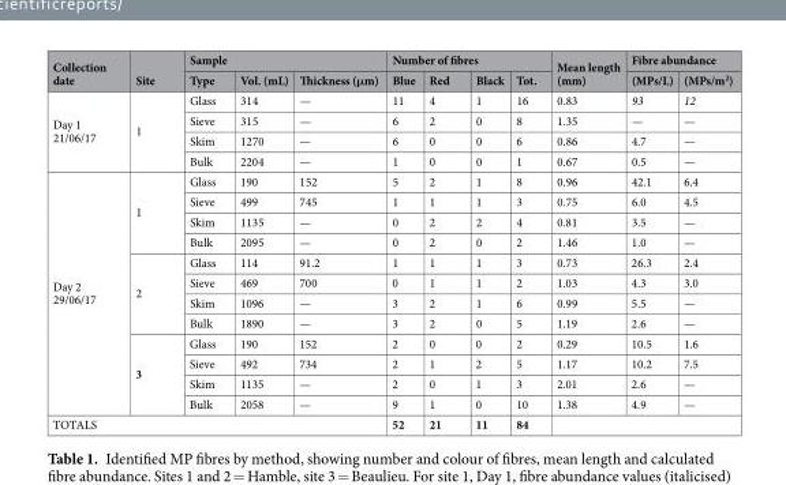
<table><thead><tr><td rowspan="2">Collection date</td><td rowspan="2">Site</td><td colspan="3">Sample</td><td colspan="4">Number of fibres</td><td rowspan="2">Mean length (mm)</td><td colspan="2">Fibre abundance</td></tr><tr><td>Type</td><td>Vol. (mL)</td><td>Thickness (μm)</td><td>Blue</td><td>Red</td><td>Black</td><td>Tot.</td><td>(MPs/L)</td><td>(MPs/m<sup>2</sup>)</td></tr></thead><tbody><tr><td rowspan="4">Day 1 21/06/17</td><td rowspan="4">1</td><td>Glass</td><td>314</td><td>—</td><td>11</td><td>4</td><td>1</td><td>16</td><td>0.83</td><td>93</td><td>12</td></tr><tr><td>Sieve</td><td>315</td><td>—</td><td>6</td><td>2</td><td>0</td><td>8</td><td>1.35</td><td>—</td><td>—</td></tr><tr><td>Skim</td><td>1270</td><td>—</td><td>6</td><td>0</td><td>0</td><td>6</td><td>0.86</td><td>4.7</td><td>—</td></tr><tr><td>Bulk</td><td>2204</td><td>—</td><td>1</td><td>0</td><td>0</td><td>1</td><td>0.67</td><td>0.5</td><td>—</td></tr><tr><td rowspan="12">Day 2 29/06/17</td><td rowspan="4">1</td><td>Glass</td><td>190</td><td>152</td><td>5</td><td>2</td><td>1</td><td>8</td><td>0.96</td><td>42.1</td><td>6.4</td></tr><tr><td>Sieve</td><td>499</td><td>745</td><td>1</td><td>1</td><td>1</td><td>3</td><td>0.75</td><td>6.0</td><td>4.5</td></tr><tr><td>Skim</td><td>1135</td><td>—</td><td>0</td><td>2</td><td>2</td><td>4</td><td>0.81</td><td>3.5</td><td>—</td></tr><tr><td>Bulk</td><td>2095</td><td>—</td><td>0</td><td>2</td><td>0</td><td>2</td><td>1.46</td><td>1.0</td><td>—</td></tr><tr><td rowspan="4">2</td><td>Glass</td><td>114</td><td>91.2</td><td>1</td><td>1</td><td>1</td><td>3</td><td>0.73</td><td>26.3</td><td>2.4</td></tr><tr><td>Sieve</td><td>469</td><td>700</td><td>0</td><td>1</td><td>1</td><td>2</td><td>1.03</td><td>4.3</td><td>3.0</td></tr><tr><td>Skim</td><td>1096</td><td>—</td><td>3</td><td>2</td><td>1</td><td>6</td><td>0.99</td><td>5.5</td><td>—</td></tr><tr><td>Bulk</td><td>1890</td><td>—</td><td>3</td><td>2</td><td>0</td><td>5</td><td>1.19</td><td>2.6</td><td>—</td></tr><tr><td rowspan="4">3</td><td>Glass</td><td>190</td><td>152</td><td>2</td><td>0</td><td>0</td><td>2</td><td>0.29</td><td>10.5</td><td>1.6</td></tr><tr><td>Sieve</td><td>492</td><td>734</td><td>2</td><td>1</td><td>2</td><td>5</td><td>1.17</td><td>10.2</td><td>7.5</td></tr><tr><td>Skim</td><td>1135</td><td>—</td><td>2</td><td>0</td><td>1</td><td>3</td><td>2.01</td><td>2.6</td><td>—</td></tr><tr><td>Bulk</td><td>2058</td><td>—</td><td>9</td><td>1</td><td>0</td><td>10</td><td>1.38</td><td>4.9</td><td>—</td></tr><tr><td colspan="5">TOTALS</td><td>52</td><td>21</td><td>11</td><td>84</td><td colspan="3"></td></tr></tbody></table>